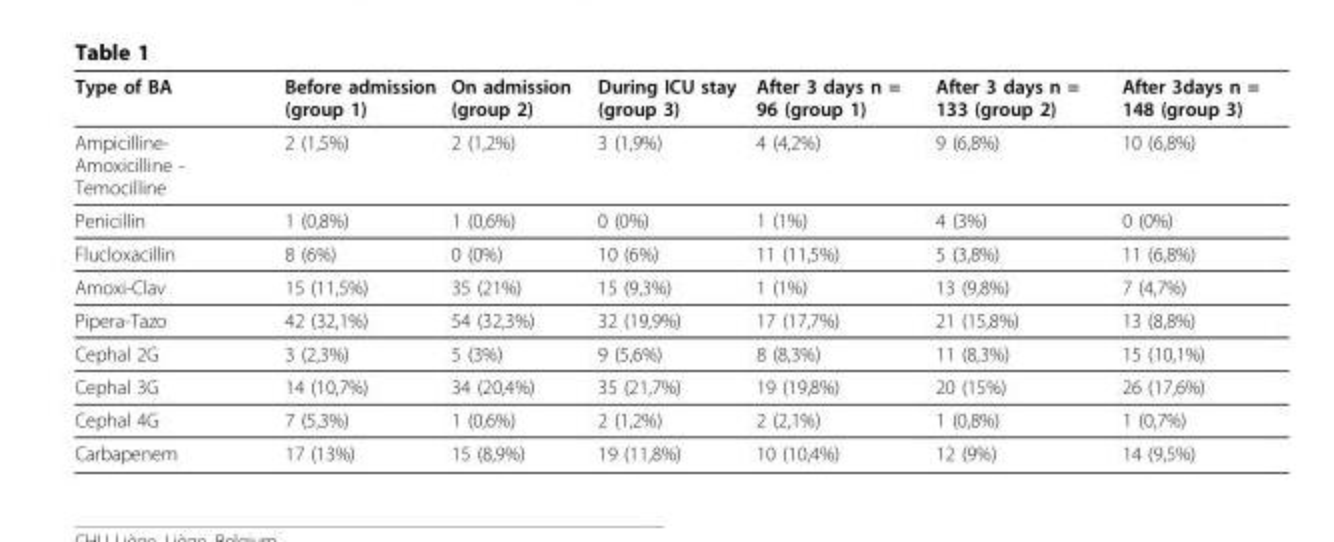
<table><thead><tr><td>Type of BA</td><td>Before admission (group 1)</td><td>On admission (group 2)</td><td>During ICU stay (group 3)</td><td>After 3 days n = 96 (group 1)</td><td>After 3 days n = 133 (group 2)</td><td>After 3days n = 148 (group 3)</td></tr></thead><tbody><tr><td>Ampicilline- Amoxicilline - Temocilline</td><td>2 (1,5%)</td><td>2 (1,2%)</td><td>3 (1,9%)</td><td>4 (4,2%)</td><td>9 (6,8%)</td><td>10 (6,8%)</td></tr><tr><td>Penicillin</td><td>1 (0,8%)</td><td>1 (0,6%)</td><td>0 (0%)</td><td>1 (1%)</td><td>4 (3%)</td><td>0 (0%)</td></tr><tr><td>Flucloxacillin</td><td>8 (6%)</td><td>0 (0%)</td><td>10 (6%)</td><td>11 (11,5%)</td><td>5 (3,8%)</td><td>11 (6,8%)</td></tr><tr><td>Amoxi-Clav</td><td>15 (11,5%)</td><td>35 (21%)</td><td>15 (9,3%)</td><td>1 (1%)</td><td>13 (9,8%)</td><td>7 (4,7%)</td></tr><tr><td>Pipera-Tazo</td><td>42 (32,1%)</td><td>54 (32,3%)</td><td>32 (19,9%)</td><td>17 (17,7%)</td><td>21 (15,8%)</td><td>13 (8,8%)</td></tr><tr><td>Cephal 2G</td><td>3 (2,3%)</td><td>5 (3%)</td><td>9 (5,6%)</td><td>8 (8,3%)</td><td>11 (8,3%)</td><td>15 (10,1%)</td></tr><tr><td>Cephal 3G</td><td>14 (10,7%)</td><td>34 (20,4%)</td><td>35 (21,7%)</td><td>19 (19,8%)</td><td>20 (15%)</td><td>26 (17,6%)</td></tr><tr><td>Cephal 4G</td><td>7 (5,3%)</td><td>1 (0,6%)</td><td>2 (1,2%)</td><td>2 (2,1%)</td><td>1 (0,8%)</td><td>1 (0,7%)</td></tr><tr><td>Carbapenem</td><td>17 (13%)</td><td>15 (8,9%)</td><td>19 (11,8%)</td><td>10 (10,4%)</td><td>12 (9%)</td><td>14 (9,5%)</td></tr></tbody></table>